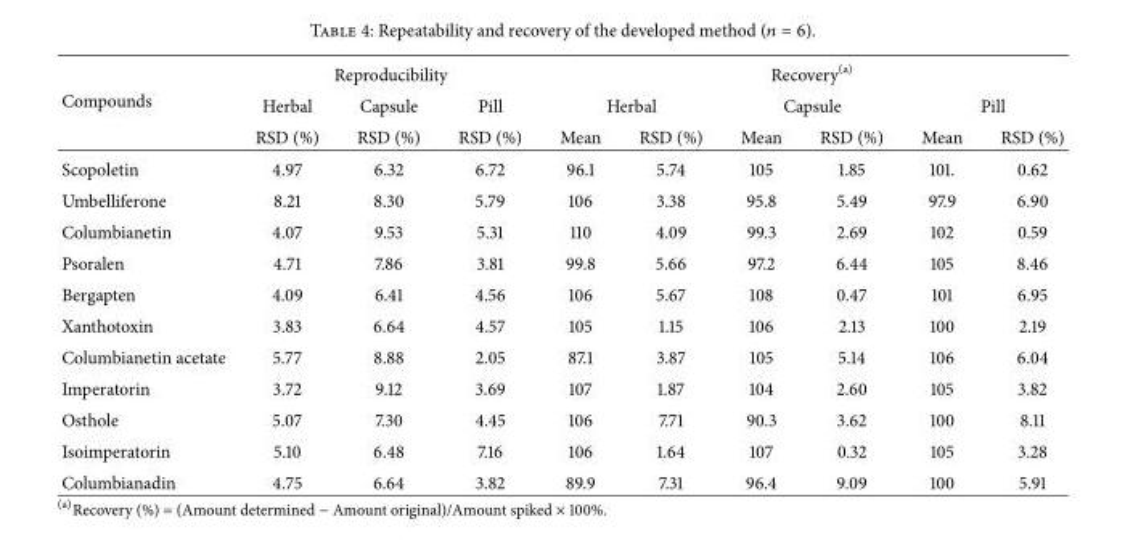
<table><thead><tr><td rowspan="3">Compounds</td><td colspan="3">Reproducibility</td><td colspan="6">Recovery<sup>(a)</sup></td></tr><tr><td rowspan="2">Herbal RSD (%)</td><td rowspan="2">Capsule RSD (%)</td><td rowspan="2">Pill RSD (%)</td><td colspan="2">Herbal</td><td colspan="2">Capsule</td><td colspan="2">Pill</td></tr><tr><td>Mean</td><td>RSD (%)</td><td>Mean</td><td>RSD (%)</td><td>Mean</td><td>RSD (%)</td></tr></thead><tbody><tr><td>Scopoletin</td><td>4.97</td><td>6.32</td><td>6.72</td><td>96.1</td><td>5.74</td><td>105</td><td>1.85</td><td>101.</td><td>0.62</td></tr><tr><td>Umbelliferone</td><td>8.21</td><td>8.30</td><td>5.79</td><td>106</td><td>3.38</td><td>95.8</td><td>5.49</td><td>97.9</td><td>6.90</td></tr><tr><td>Columbianetin</td><td>4.07</td><td>9.53</td><td>5.31</td><td>110</td><td>4.09</td><td>99.3</td><td>2.69</td><td>102</td><td>0.59</td></tr><tr><td>Psoralen</td><td>4.71</td><td>7.86</td><td>3.81</td><td>99.8</td><td>5.66</td><td>97.2</td><td>6.44</td><td>105</td><td>8.46</td></tr><tr><td>Bergapten</td><td>4.09</td><td>6.41</td><td>4.56</td><td>106</td><td>5.67</td><td>108</td><td>0.47</td><td>101</td><td>6.95</td></tr><tr><td>Xanthotoxin</td><td>3.83</td><td>6.64</td><td>4.57</td><td>105</td><td>1.15</td><td>106</td><td>2.13</td><td>100</td><td>2.19</td></tr><tr><td>Columbianetin acetate</td><td>5.77</td><td>8.88</td><td>2.05</td><td>87.1</td><td>3.87</td><td>105</td><td>5.14</td><td>106</td><td>6.04</td></tr><tr><td>Imperatorin</td><td>3.72</td><td>9.12</td><td>3.69</td><td>107</td><td>1.87</td><td>104</td><td>2.60</td><td>105</td><td>3.82</td></tr><tr><td>Osthole</td><td>5.07</td><td>7.30</td><td>4.45</td><td>106</td><td>7.71</td><td>90.3</td><td>3.62</td><td>100</td><td>8.11</td></tr><tr><td>Isoimperatorin</td><td>5.10</td><td>6.48</td><td>7.16</td><td>106</td><td>1.64</td><td>107</td><td>0.32</td><td>105</td><td>3.28</td></tr><tr><td>Columbianadin</td><td>4.75</td><td>6.64</td><td>3.82</td><td>89.9</td><td>7.31</td><td>96.4</td><td>9.09</td><td>100</td><td>5.91</td></tr></tbody></table>